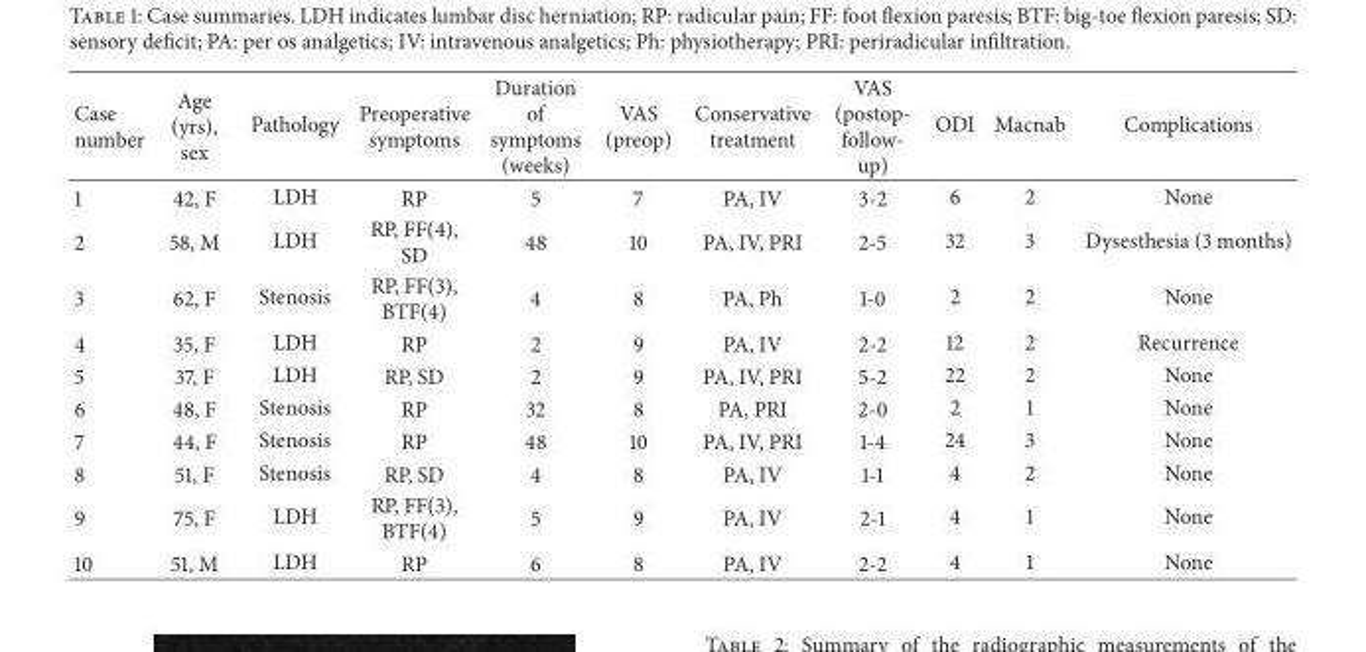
<table><thead><tr><td>Case number</td><td>Age (yrs), sex</td><td>Pathology</td><td>Preoperative symptoms</td><td>Duration of symptoms (weeks)</td><td>VAS (preop)</td><td>Conservative treatment</td><td>VAS (postop- follow- up)</td><td>ODI</td><td>Macnab</td><td>Complications</td></tr></thead><tbody><tr><td>1</td><td>42, F</td><td>LDH</td><td>RP</td><td>5</td><td>7</td><td>PA, IV</td><td>3-2</td><td>6</td><td>2</td><td>None</td></tr><tr><td>2</td><td>58, M</td><td>LDH</td><td>RP, FF(4), SD</td><td>48</td><td>10</td><td>PA, IV, PRI</td><td>2-5</td><td>32</td><td>3</td><td>Dysesthesia (3 months)</td></tr><tr><td>3</td><td>62, F</td><td>Stenosis</td><td>RP, FF(3), BTF(4)</td><td>4</td><td>8</td><td>PA, Ph</td><td>1-0</td><td>2</td><td>2</td><td>None</td></tr><tr><td>4</td><td>35, F</td><td>LDH</td><td>RP</td><td>2</td><td>9</td><td>PA, IV</td><td>2-2</td><td>12</td><td>2</td><td>Recurrence</td></tr><tr><td>5</td><td>37, F</td><td>LDH</td><td>RP, SD</td><td>2</td><td>9</td><td>PA, IV, PRI</td><td>5-2</td><td>22</td><td>2</td><td>None</td></tr><tr><td>6</td><td>48, F</td><td>Stenosis</td><td>RP</td><td>32</td><td>8</td><td>PA, PRI</td><td>2-0</td><td>2</td><td>1</td><td>None</td></tr><tr><td>7</td><td>44, F</td><td>Stenosis</td><td>RP</td><td>48</td><td>10</td><td>PA, IV, PRI</td><td>1-4</td><td>24</td><td>3</td><td>None</td></tr><tr><td>8</td><td>51, F</td><td>Stenosis</td><td>RP, SD</td><td>4</td><td>8</td><td>PA, IV</td><td>1-1</td><td>4</td><td>2</td><td>None</td></tr><tr><td>9</td><td>75, F</td><td>LDH</td><td>RP, FF(3), BTF(4)</td><td>5</td><td>9</td><td>PA, IV</td><td>2-1</td><td>4</td><td>1</td><td>None</td></tr><tr><td>10</td><td>51, M</td><td>LDH</td><td>RP</td><td>6</td><td>8</td><td>PA, IV</td><td>2-2</td><td>4</td><td>1</td><td>None</td></tr></tbody></table>